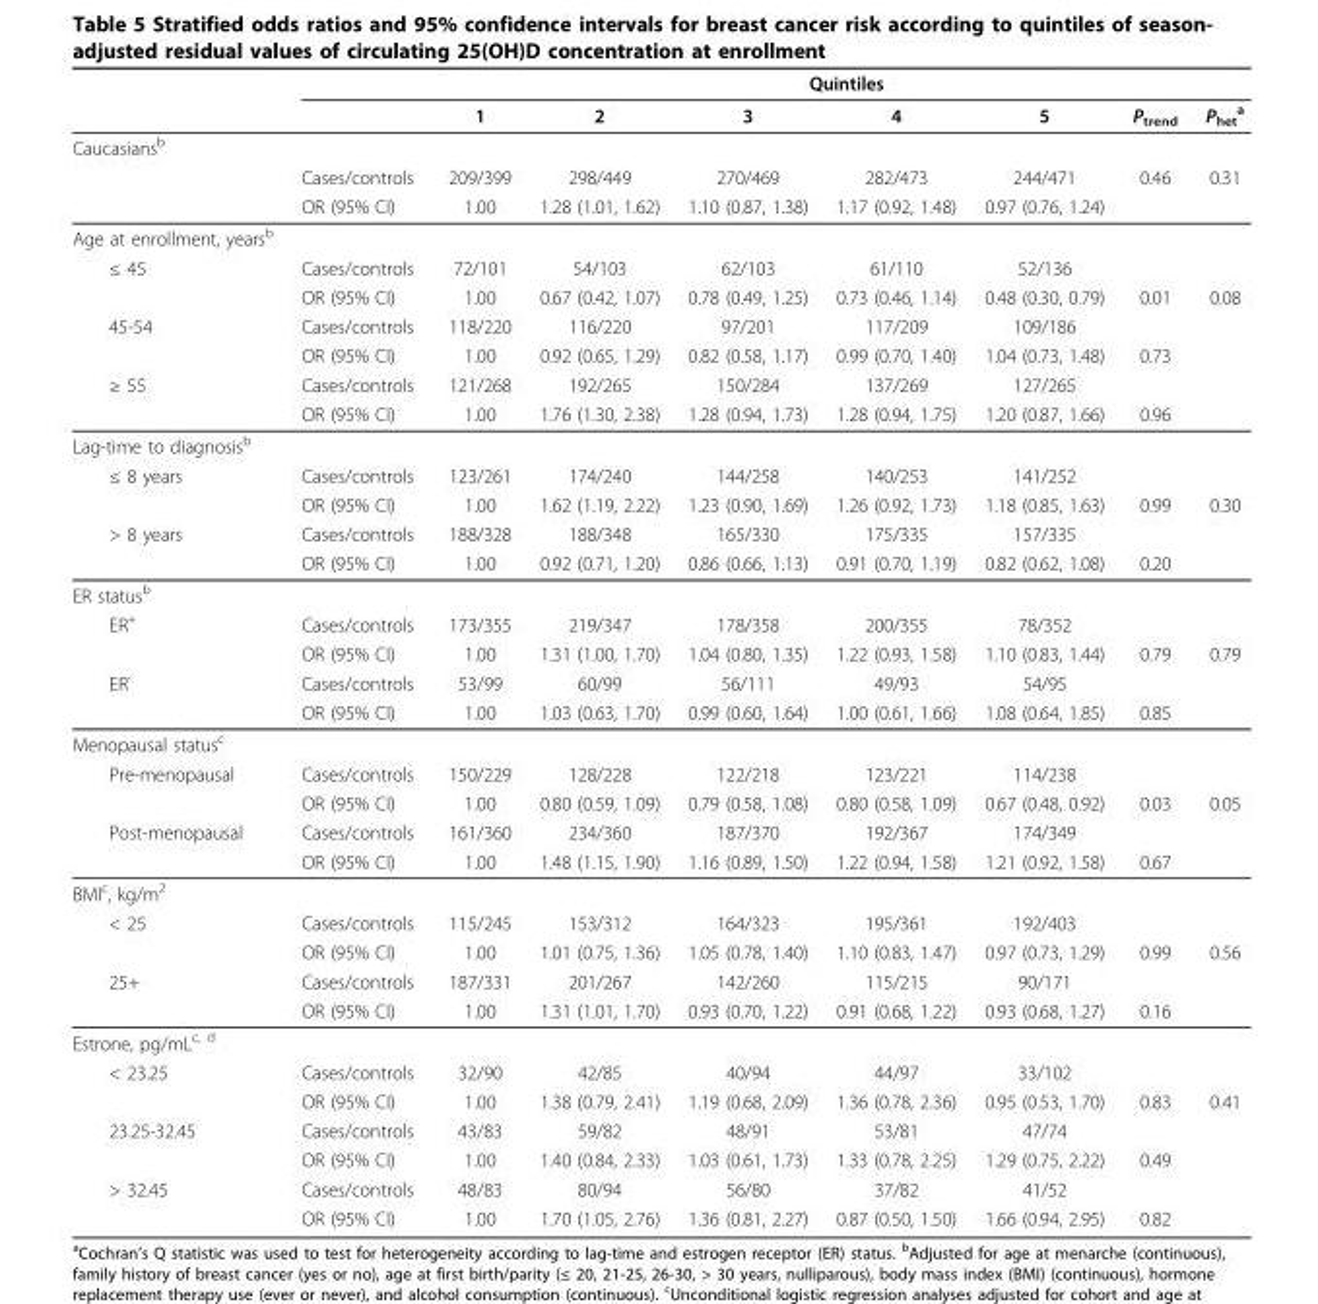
<table><thead><tr><td rowspan="2"></td><td rowspan="2"></td><td colspan="7">Quintiles</td></tr><tr><td>1</td><td>2</td><td>3</td><td>4</td><td>5</td><td>P<sub>trend</sub></td><td>P<sub>het</sub> <sup>a</sup></td></tr></thead><tbody><tr><td colspan="9">Caucasians<sup>b</sup></td></tr><tr><td></td><td>Cases/controls</td><td>209/399</td><td>298/449</td><td>270/469</td><td>282/473</td><td>244/471</td><td>0.46</td><td>0.31</td></tr><tr><td></td><td>OR (95% CI)</td><td>1.00</td><td>1.28 (1.01, 1.62)</td><td>1.10 (0.87, 1.38)</td><td>1.17 (0.92, 1.48)</td><td>0.97 (0.76, 1.24)</td><td></td><td></td></tr><tr><td colspan="9">Age at enrollment, years<sup>b</sup></td></tr><tr><td rowspan="2">≤ 45</td><td>Cases/controls</td><td>72/101</td><td>54/103</td><td>62/103</td><td>61/110</td><td>52/136</td><td></td><td></td></tr><tr><td>OR (95% CI)</td><td>1.00</td><td>0.67 (0.42, 1.07)</td><td>0.78 (0.49, 1.25)</td><td>0.73 (0.46, 1.14)</td><td>0.48 (0.30, 0.79)</td><td>0.01</td><td>0.08</td></tr><tr><td rowspan="2">45-54</td><td>Cases/controls</td><td>118/220</td><td>116/220</td><td>97/201</td><td>117/209</td><td>109/186</td><td></td><td></td></tr><tr><td>OR (95% CI)</td><td>1.00</td><td>0.92 (0.65, 1.29)</td><td>0.82 (0.58, 1.17)</td><td>0.99 (0.70, 1.40)</td><td>1.04 (0.73, 1.48)</td><td>0.73</td><td></td></tr><tr><td rowspan="2">≥ 55</td><td>Cases/controls</td><td>121/268</td><td>192/265</td><td>150/284</td><td>137/269</td><td>127/265</td><td></td><td></td></tr><tr><td>OR (95% CI)</td><td>1.00</td><td>1.76 (1.30, 2.38)</td><td>1.28 (0.94, 1.73)</td><td>1.28 (0.94, 1.75)</td><td>1.20 (0.87, 1.66)</td><td>0.96</td><td></td></tr><tr><td colspan="9">Lag-time to diagnosis<sup>b</sup></td></tr><tr><td rowspan="2">≤ 8 years</td><td>Cases/controls</td><td>123/261</td><td>174/240</td><td>144/258</td><td>140/253</td><td>141/252</td><td></td><td></td></tr><tr><td>OR (95% CI)</td><td>1.00</td><td>1.62 (1.19, 2.22)</td><td>1.23 (0.90, 1.69)</td><td>1.26 (0.92, 1.73)</td><td>1.18 (0.85, 1.63)</td><td>0.99</td><td>0.30</td></tr><tr><td rowspan="2">&gt; 8 years</td><td>Cases/controls</td><td>188/328</td><td>188/348</td><td>165/330</td><td>175/335</td><td>157/335</td><td></td><td></td></tr><tr><td>OR (95% CI)</td><td>1.00</td><td>0.92 (0.71, 1.20)</td><td>0.86 (0.66, 1.13)</td><td>0.91 (0.70, 1.19)</td><td>0.82 (0.62, 1.08)</td><td>0.20</td><td></td></tr><tr><td colspan="9">ER status<sup>b</sup></td></tr><tr><td rowspan="2">ER<sup>+</sup></td><td>Cases/controls</td><td>173/355</td><td>219/347</td><td>178/358</td><td>200/355</td><td>78/352</td><td></td><td></td></tr><tr><td>OR (95% CI)</td><td>1.00</td><td>1.31 (1.00, 1.70)</td><td>1.04 (0.80, 1.35)</td><td>1.22 (0.93, 1.58)</td><td>1.10 (0.83, 1.44)</td><td>0.79</td><td>0.79</td></tr><tr><td rowspan="2">ER<sup>-</sup></td><td>Cases/controls</td><td>53/99</td><td>60/99</td><td>56/111</td><td>49/93</td><td>54/95</td><td></td><td></td></tr><tr><td>OR (95% CI)</td><td>1.00</td><td>1.03 (0.63, 1.70)</td><td>0.99 (0.60, 1.64)</td><td>1.00 (0.61, 1.66)</td><td>1.08 (0.64, 1.85)</td><td>0.85</td><td></td></tr><tr><td colspan="9">Menopausal status<sup>c</sup></td></tr><tr><td rowspan="2">Pre-menopausal</td><td>Cases/controls</td><td>150/229</td><td>128/228</td><td>122/218</td><td>123/221</td><td>114/238</td><td></td><td></td></tr><tr><td>OR (95% CI)</td><td>1.00</td><td>0.80 (0.59, 1.09)</td><td>0.79 (0.58, 1.08)</td><td>0.80 (0.58, 1.09)</td><td>0.67 (0.48, 0.92)</td><td>0.03</td><td>0.05</td></tr><tr><td rowspan="2">Post-menopausal</td><td>Cases/controls</td><td>161/360</td><td>234/360</td><td>187/370</td><td>192/367</td><td>174/349</td><td></td><td></td></tr><tr><td>OR (95% CI)</td><td>1.00</td><td>1.48 (1.15, 1.90)</td><td>1.16 (0.89, 1.50)</td><td>1.22 (0.94, 1.58)</td><td>1.21 (0.92, 1.58)</td><td>0.67</td><td></td></tr><tr><td colspan="9">BMI<sup>c</sup>, kg/m<sup>2</sup></td></tr><tr><td rowspan="2">&lt; 25</td><td>Cases/controls</td><td>115/245</td><td>153/312</td><td>164/323</td><td>195/361</td><td>192/403</td><td></td><td></td></tr><tr><td>OR (95% CI)</td><td>1.00</td><td>1.01 (0.75, 1.36)</td><td>1.05 (0.78, 1.40)</td><td>1.10 (0.83, 1.47)</td><td>0.97 (0.73, 1.29)</td><td>0.99</td><td>0.56</td></tr><tr><td rowspan="2">25+</td><td>Cases/controls</td><td>187/331</td><td>201/267</td><td>142/260</td><td>115/215</td><td>90/171</td><td></td><td></td></tr><tr><td>OR (95% CI)</td><td>1.00</td><td>1.31 (1.01, 1.70)</td><td>0.93 (0.70, 1.22)</td><td>0.91 (0.68, 1.22)</td><td>0.93 (0.68, 1.27)</td><td>0.16</td><td></td></tr><tr><td colspan="9">Estrone, pg/mL<sup>c, d</sup></td></tr><tr><td rowspan="2">&lt; 23.25</td><td>Cases/controls</td><td>32/90</td><td>42/85</td><td>40/94</td><td>44/97</td><td>33/102</td><td></td><td></td></tr><tr><td>OR (95% CI)</td><td>1.00</td><td>1.38 (0.79, 2.41)</td><td>1.19 (0.68, 2.09)</td><td>1.36 (0.78, 2.36)</td><td>0.95 (0.53, 1.70)</td><td>0.83</td><td>0.41</td></tr><tr><td rowspan="2">23.25-32.45</td><td>Cases/controls</td><td>43/83</td><td>59/82</td><td>48/91</td><td>53/81</td><td>47/74</td><td></td><td></td></tr><tr><td>OR (95% CI)</td><td>1.00</td><td>1.40 (0.84, 2.33)</td><td>1.03 (0.61, 1.73)</td><td>1.33 (0.78, 2.25)</td><td>1.29 (0.75, 2.22)</td><td>0.49</td><td></td></tr><tr><td rowspan="2">&gt; 32.45</td><td>Cases/controls</td><td>48/83</td><td>80/94</td><td>56/80</td><td>37/82</td><td>41/52</td><td></td><td></td></tr><tr><td>OR (95% CI)</td><td>1.00</td><td>1.70 (1.05, 2.76)</td><td>1.36 (0.81, 2.27)</td><td>0.87 (0.50, 1.50)</td><td>1.66 (0.94, 2.95)</td><td>0.82</td><td></td></tr></tbody></table>